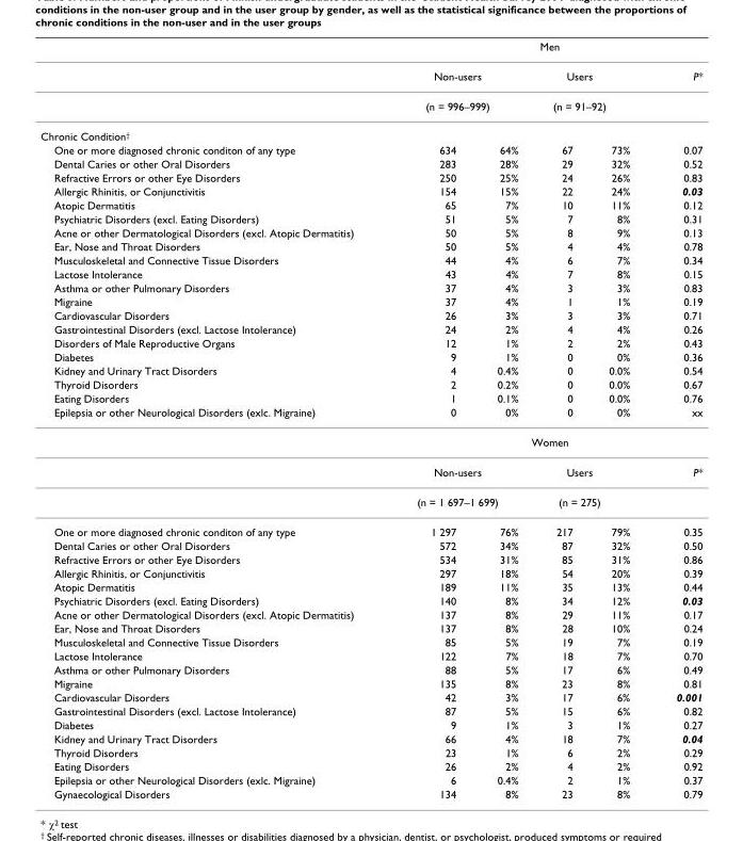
<table><thead><tr><td></td><td colspan="5">Men</td></tr></thead><tbody><tr><td></td><td colspan="2">Non-users</td><td colspan="2">Users</td><td>P*</td></tr><tr><td></td><td colspan="2">(n = 996–999)</td><td colspan="2">(n = 91–92)</td><td></td></tr><tr><td colspan="6">Chronic Condition<sup>†</sup></td></tr><tr><td>One or more diagnosed chronic conditon of any type</td><td>634</td><td>64%</td><td>67</td><td>73%</td><td>0.07</td></tr><tr><td>Dental Caries or other Oral Disorders</td><td>283</td><td>28%</td><td>29</td><td>32%</td><td>0.52</td></tr><tr><td>Refractive Errors or other Eye Disorders</td><td>250</td><td>25%</td><td>24</td><td>26%</td><td>0.83</td></tr><tr><td>Allergic Rhinitis, or Conjunctivitis</td><td>154</td><td>15%</td><td>22</td><td>24%</td><td>0.03</td></tr><tr><td>Atopic Dermatitis</td><td>65</td><td>7%</td><td>10</td><td>11%</td><td>0.12</td></tr><tr><td>Psychiatric Disorders (excl. Eating Disorders)</td><td>51</td><td>5%</td><td>7</td><td>8%</td><td>0.31</td></tr><tr><td>Acne or other Dermatological Disorders (excl. Atopic Dermatitis)</td><td>50</td><td>5%</td><td>8</td><td>9%</td><td>0.13</td></tr><tr><td>Ear, Nose and Throat Disorders</td><td>50</td><td>5%</td><td>4</td><td>4%</td><td>0.78</td></tr><tr><td>Musculoskeletal and Connective Tissue Disorders</td><td>44</td><td>4%</td><td>6</td><td>7%</td><td>0.34</td></tr><tr><td>Lactose Intolerance</td><td>43</td><td>4%</td><td>7</td><td>8%</td><td>0.15</td></tr><tr><td>Asthma or other Pulmonary Disorders</td><td>37</td><td>4%</td><td>3</td><td>3%</td><td>0.83</td></tr><tr><td>Migraine</td><td>37</td><td>4%</td><td>1</td><td>1%</td><td>0.19</td></tr><tr><td>Cardiovascular Disorders</td><td>26</td><td>3%</td><td>3</td><td>3%</td><td>0.71</td></tr><tr><td>Gastrointestinal Disorders (excl. Lactose Intolerance)</td><td>24</td><td>2%</td><td>4</td><td>4%</td><td>0.26</td></tr><tr><td>Disorders of Male Reproductive Organs</td><td>12</td><td>1%</td><td>2</td><td>2%</td><td>0.43</td></tr><tr><td>Diabetes</td><td>9</td><td>1%</td><td>0</td><td>0%</td><td>0.36</td></tr><tr><td>Kidney and Urinary Tract Disorders</td><td>4</td><td>0.4%</td><td>0</td><td>0.0%</td><td>0.54</td></tr><tr><td>Thyroid Disorders</td><td>2</td><td>0.2%</td><td>0</td><td>0.0%</td><td>0.67</td></tr><tr><td>Eating Disorders</td><td>1</td><td>0.1%</td><td>0</td><td>0.0%</td><td>0.76</td></tr><tr><td rowspan="4">Epilepsia or other Neurological Disorders (exlc. Migraine)</td><td>0</td><td>0%</td><td>0</td><td>0%</td><td>xx</td></tr><tr><td colspan="5">Women</td></tr><tr><td colspan="2">Non-users</td><td colspan="2">Users</td><td>P*</td></tr><tr><td colspan="2">(n = 1 697–1 699)</td><td colspan="2">(n = 275)</td><td></td></tr><tr><td>One or more diagnosed chronic conditon of any type</td><td>1 297</td><td>76%</td><td>217</td><td>79%</td><td>0.35</td></tr><tr><td>Dental Caries or other Oral Disorders</td><td>572</td><td>34%</td><td>87</td><td>32%</td><td>0.50</td></tr><tr><td>Refractive Errors or other Eye Disorders</td><td>534</td><td>31%</td><td>85</td><td>31%</td><td>0.86</td></tr><tr><td>Allergic Rhinitis, or Conjunctivitis</td><td>297</td><td>18%</td><td>54</td><td>20%</td><td>0.39</td></tr><tr><td>Atopic Dermatitis</td><td>189</td><td>11%</td><td>35</td><td>13%</td><td>0.44</td></tr><tr><td>Psychiatric Disorders (excl. Eating Disorders)</td><td>140</td><td>8%</td><td>34</td><td>12%</td><td>0.03</td></tr><tr><td>Acne or other Dermatological Disorders (excl. Atopic Dermatitis)</td><td>137</td><td>8%</td><td>29</td><td>11%</td><td>0.17</td></tr><tr><td>Ear, Nose and Throat Disorders</td><td>137</td><td>8%</td><td>28</td><td>10%</td><td>0.24</td></tr><tr><td>Musculoskeletal and Connective Tissue Disorders</td><td>85</td><td>5%</td><td>19</td><td>7%</td><td>0.19</td></tr><tr><td>Lactose Intolerance</td><td>122</td><td>7%</td><td>18</td><td>7%</td><td>0.70</td></tr><tr><td>Asthma or other Pulmonary Disorders</td><td>88</td><td>5%</td><td>17</td><td>6%</td><td>0.49</td></tr><tr><td>Migraine</td><td>135</td><td>8%</td><td>23</td><td>8%</td><td>0.81</td></tr><tr><td>Cardiovascular Disorders</td><td>42</td><td>3%</td><td>17</td><td>6%</td><td>0.001</td></tr><tr><td>Gastrointestinal Disorders (excl. Lactose Intolerance)</td><td>87</td><td>5%</td><td>15</td><td>6%</td><td>0.82</td></tr><tr><td>Diabetes</td><td>9</td><td>1%</td><td>3</td><td>1%</td><td>0.27</td></tr><tr><td>Kidney and Urinary Tract Disorders</td><td>66</td><td>4%</td><td>18</td><td>7%</td><td>0.04</td></tr><tr><td>Thyroid Disorders</td><td>23</td><td>1%</td><td>6</td><td>2%</td><td>0.29</td></tr><tr><td>Eating Disorders</td><td>26</td><td>2%</td><td>4</td><td>2%</td><td>0.92</td></tr><tr><td>Epilepsia or other Neurological Disorders (exlc. Migraine)</td><td>6</td><td>0.4%</td><td>2</td><td>1%</td><td>0.37</td></tr><tr><td>Gynaecological Disorders</td><td>134</td><td>8%</td><td>23</td><td>8%</td><td>0.79</td></tr></tbody></table>